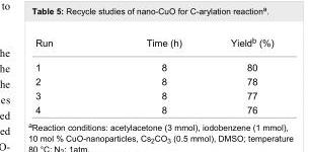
<table><tbody><tr><td>Run</td><td>Time (h)</td><td>Yield<sup>b</sup> (%)</td></tr><tr><td>1</td><td>8</td><td>80</td></tr><tr><td>2</td><td>8</td><td>78</td></tr><tr><td>3</td><td>8</td><td>77</td></tr><tr><td>4</td><td>8</td><td>76</td></tr></tbody></table>